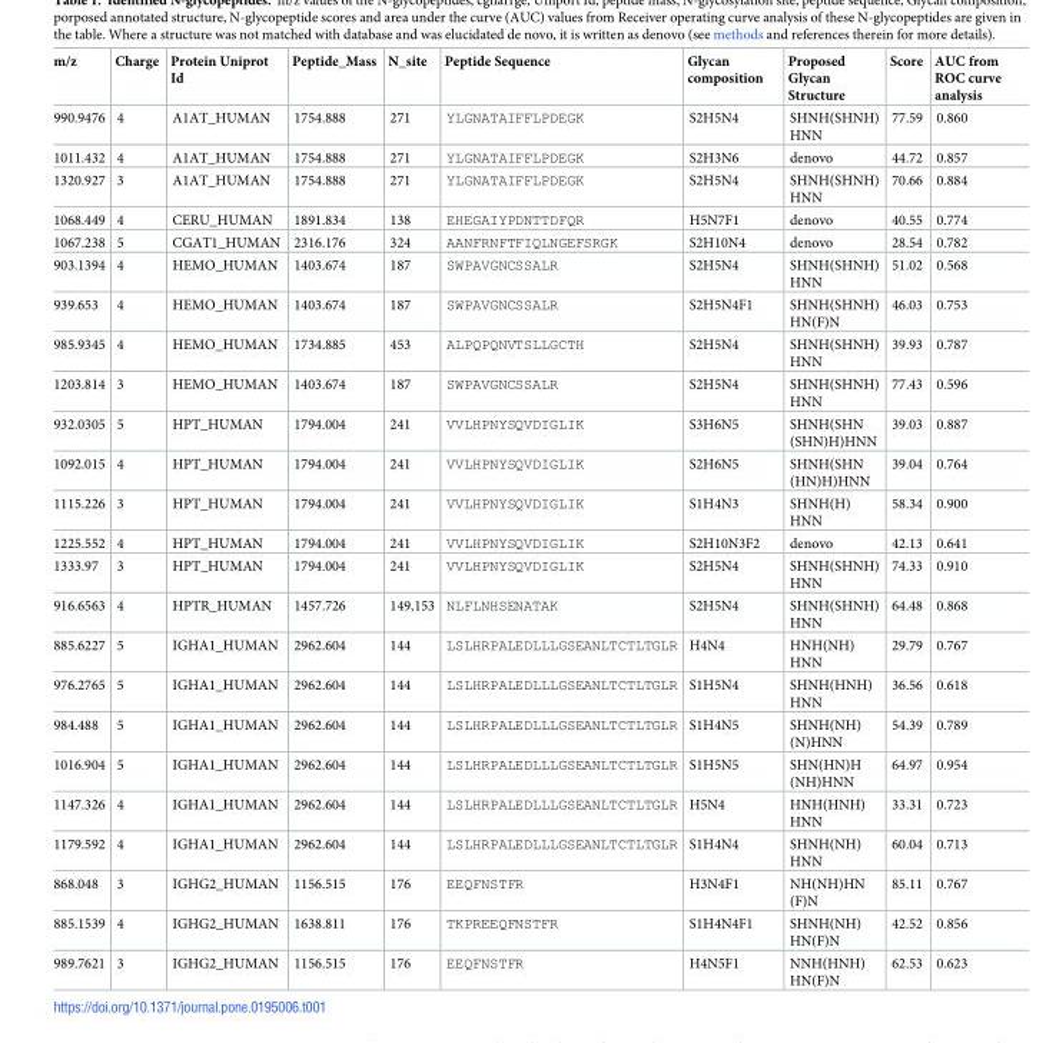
<table><thead><tr><td>m/z</td><td>Charge</td><td>Protein Uniprot Id</td><td>Peptide_Mass</td><td>N_site</td><td>Peptide Sequence</td><td>Glycan composition</td><td>Proposed Glycan Structure</td><td>Score</td><td>AUC from ROC curve analysis</td></tr></thead><tbody><tr><td>990.9476</td><td>4</td><td>A1AT_HUMAN</td><td>1754.888</td><td>271</td><td>YLGNATAIFFLPDEGK</td><td>S2H5N4</td><td>SHNH(SHNH) HNN</td><td>77.59</td><td>0.860</td></tr><tr><td>1011.432</td><td>4</td><td>A1AT_HUMAN</td><td>1754.888</td><td>271</td><td>YLGNATAIFFLPDEGK</td><td>S2H3N6</td><td>denovo</td><td>44.72</td><td>0.857</td></tr><tr><td>1320.927</td><td>3</td><td>A1AT_HUMAN</td><td>1754.888</td><td>271</td><td>YLGNATAIFFLPDEGK</td><td>S2H5N4</td><td>SHNH(SHNH) HNN</td><td>70.66</td><td>0.884</td></tr><tr><td>1068.449</td><td>4</td><td>CERU_HUMAN</td><td>1891.834</td><td>138</td><td>EHEGAIYPDNTTDFQR</td><td>H5N7F1</td><td>denovo</td><td>40.55</td><td>0.774</td></tr><tr><td>1067.238</td><td>5</td><td>CGAT1_HUMAN</td><td>2316.176</td><td>324</td><td>AANFRNFTFIQLNGEFSRGK</td><td>S2H10N4</td><td>denovo</td><td>28.54</td><td>0.782</td></tr><tr><td>903.1394</td><td>4</td><td>HEMO_HUMAN</td><td>1403.674</td><td>187</td><td>SWPAVGNCSSALR</td><td>S2H5N4</td><td>SHNH(SHNH) HNN</td><td>51.02</td><td>0.568</td></tr><tr><td>939.653</td><td>4</td><td>HEMO_HUMAN</td><td>1403.674</td><td>187</td><td>SWPAVGNCSSALR</td><td>S2H5N4F1</td><td>SHNH(SHNH) HN(F)N</td><td>46.03</td><td>0.753</td></tr><tr><td>985.9345</td><td>4</td><td>HEMO_HUMAN</td><td>1734.885</td><td>453</td><td>ALPQPQNVTSLLGCTH</td><td>S2H5N4</td><td>SHNH(SHNH) HNN</td><td>39.93</td><td>0.787</td></tr><tr><td>1203.814</td><td>3</td><td>HEMO_HUMAN</td><td>1403.674</td><td>187</td><td>SWPAVGNCSSALR</td><td>S2H5N4</td><td>SHNH(SHNH) HNN</td><td>77.43</td><td>0.596</td></tr><tr><td>932.0305</td><td>5</td><td>HPT_HUMAN</td><td>1794.004</td><td>241</td><td>VVLHPNYSQVDIGLIK</td><td>S3H6N5</td><td>SHNH(SHN (SHN)H)HNN</td><td>39.03</td><td>0.887</td></tr><tr><td>1092.015</td><td>4</td><td>HPT_HUMAN</td><td>1794.004</td><td>241</td><td>VVLHPNYSQVDIGLIK</td><td>S2H6N5</td><td>SHNH(SHN (HN)H)HNN</td><td>39.04</td><td>0.764</td></tr><tr><td>1115.226</td><td>3</td><td>HPT_HUMAN</td><td>1794.004</td><td>241</td><td>VVLHPNYSQVDIGLIK</td><td>S1H4N3</td><td>SHNH(H) HNN</td><td>58.34</td><td>0.900</td></tr><tr><td>1225.552</td><td>4</td><td>HPT_HUMAN</td><td>1794.004</td><td>241</td><td>VVLHPNYSQVDIGLIK</td><td>S2H10N3F2</td><td>denovo</td><td>42.13</td><td>0.641</td></tr><tr><td>1333.97</td><td>3</td><td>HPT_HUMAN</td><td>1794.004</td><td>241</td><td>VVLHPNYSQVDIGLIK</td><td>S2H5N4</td><td>SHNH(SHNH) HNN</td><td>74.33</td><td>0.910</td></tr><tr><td>916.6563</td><td>4</td><td>HPTR_HUMAN</td><td>1457.726</td><td>149,153</td><td>NLFLNHSENATAK</td><td>S2H5N4</td><td>SHNH(SHNH) HNN</td><td>64.48</td><td>0.868</td></tr><tr><td>885.6227</td><td>5</td><td>IGHA1_HUMAN</td><td>2962.604</td><td>144</td><td>LSLHRPALEDLLLGSEANLTCTLTGLR</td><td>H4N4</td><td>HNH(NH) HNN</td><td>29.79</td><td>0.767</td></tr><tr><td>976.2765</td><td>5</td><td>IGHA1_HUMAN</td><td>2962.604</td><td>144</td><td>LSLHRPALEDLLLGSEANLTCTLTGLR</td><td>S1H5N4</td><td>SHNH(HNH) HNN</td><td>36.56</td><td>0.618</td></tr><tr><td>984.488</td><td>5</td><td>IGHA1_HUMAN</td><td>2962.604</td><td>144</td><td>LSLHRPALEDLLLGSEANLTCTLTGLR</td><td>S1H4N5</td><td>SHNH(NH) (N)HNN</td><td>54.39</td><td>0.789</td></tr><tr><td>1016.904</td><td>5</td><td>IGHA1_HUMAN</td><td>2962.604</td><td>144</td><td>LSLHRPALEDLLLGSEANLTCTLTGLR</td><td>S1H5N5</td><td>SHN(HN)H (NH)HNN</td><td>64.97</td><td>0.954</td></tr><tr><td>1147.326</td><td>4</td><td>IGHA1_HUMAN</td><td>2962.604</td><td>144</td><td>LSLHRPALEDLLLGSEANLTCTLTGLR</td><td>H5N4</td><td>HNH(HNH) HNN</td><td>33.31</td><td>0.723</td></tr><tr><td>1179.592</td><td>4</td><td>IGHA1_HUMAN</td><td>2962.604</td><td>144</td><td>LSLHRPALEDLLLGSEANLTCTLTGLR</td><td>S1H4N4</td><td>SHNH(NH) HNN</td><td>60.04</td><td>0.713</td></tr><tr><td>868.048</td><td>3</td><td>IGHG2_HUMAN</td><td>1156.515</td><td>176</td><td>EEQFNSTFR</td><td>H3N4F1</td><td>NH(NH)HN (F)N</td><td>85.11</td><td>0.767</td></tr><tr><td>885.1539</td><td>4</td><td>IGHG2_HUMAN</td><td>1638.811</td><td>176</td><td>TKPREEQFNSTFR</td><td>S1H4N4F1</td><td>SHNH(NH) HN(F)N</td><td>42.52</td><td>0.856</td></tr><tr><td>989.7621</td><td>3</td><td>IGHG2_HUMAN</td><td>1156.515</td><td>176</td><td>EEQFNSTFR</td><td>H4N5F1</td><td>NNH(HNH) HN(F)N</td><td>62.53</td><td>0.623</td></tr></tbody></table>